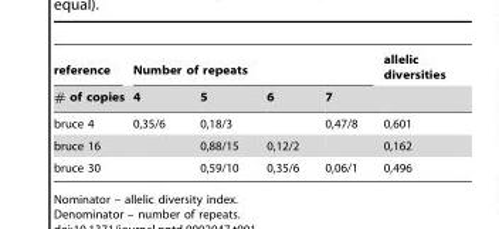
<table><thead><tr><td rowspan="2">reference # of copies</td><td colspan="4">Number of repeats</td><td rowspan="2">allelic diversities</td></tr><tr><td>4</td><td>5</td><td>6</td><td>7</td></tr></thead><tbody><tr><td>bruce 4</td><td>0,35/6</td><td>0,18/3</td><td></td><td>0,47/8</td><td>0,601</td></tr><tr><td>bruce 16</td><td></td><td>0,88/15</td><td>0,12/2</td><td></td><td>0,162</td></tr><tr><td>bruce 30</td><td></td><td>0,59/10</td><td>0,35/6</td><td>0,06/1</td><td>0,496</td></tr></tbody></table>